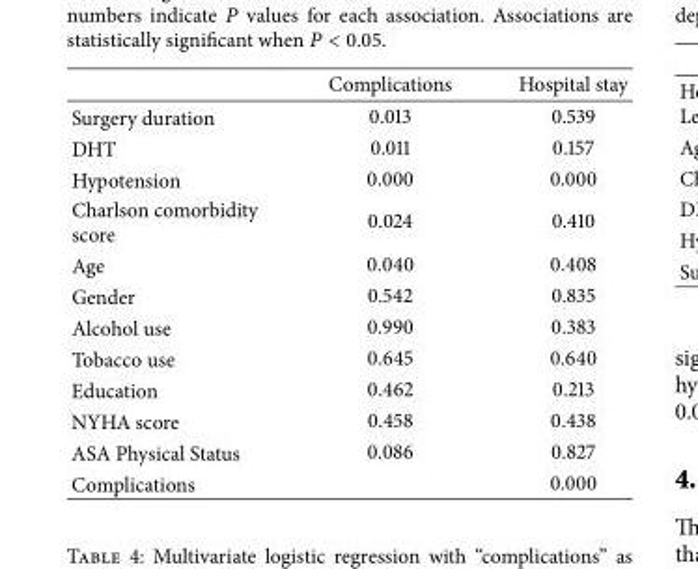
<table><thead><tr><td></td><td>Complications</td><td>Hospital stay</td></tr></thead><tbody><tr><td>Surgery duration</td><td>0.013</td><td>0.539</td></tr><tr><td>DHT</td><td>0.011</td><td>0.157</td></tr><tr><td>Hypotension</td><td>0.000</td><td>0.000</td></tr><tr><td>Charlson comorbidity score</td><td>0.024</td><td>0.410</td></tr><tr><td>Age</td><td>0.040</td><td>0.408</td></tr><tr><td>Gender</td><td>0.542</td><td>0.835</td></tr><tr><td>Alcohol use</td><td>0.990</td><td>0.383</td></tr><tr><td>Tobacco use</td><td>0.645</td><td>0.640</td></tr><tr><td>Education</td><td>0.462</td><td>0.213</td></tr><tr><td>NYHA score</td><td>0.458</td><td>0.438</td></tr><tr><td>ASA Physical Status</td><td>0.086</td><td>0.827</td></tr><tr><td>Complications</td><td></td><td>0.000</td></tr></tbody></table>